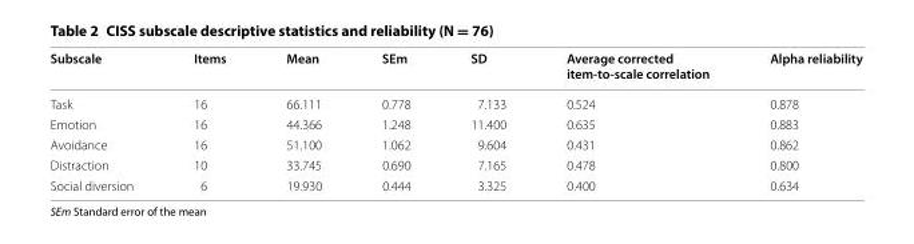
<table><thead><tr><td>Subscale</td><td>Items</td><td>Mean</td><td>SEm</td><td>SD</td><td>Average corrected item‑to‑scale correlation</td><td>Alpha reliability</td></tr></thead><tbody><tr><td>Task</td><td>16</td><td>66.111</td><td>0.778</td><td>7.133</td><td>0.524</td><td>0.878</td></tr><tr><td>Emotion</td><td>16</td><td>44.366</td><td>1.248</td><td>11.400</td><td>0.635</td><td>0.883</td></tr><tr><td>Avoidance</td><td>16</td><td>51.100</td><td>1.062</td><td>9.604</td><td>0.431</td><td>0.862</td></tr><tr><td>Distraction</td><td>10</td><td>33.745</td><td>0.690</td><td>7.165</td><td>0.478</td><td>0.800</td></tr><tr><td>Social diversion</td><td>6</td><td>19.930</td><td>0.444</td><td>3.325</td><td>0.400</td><td>0.634</td></tr></tbody></table>